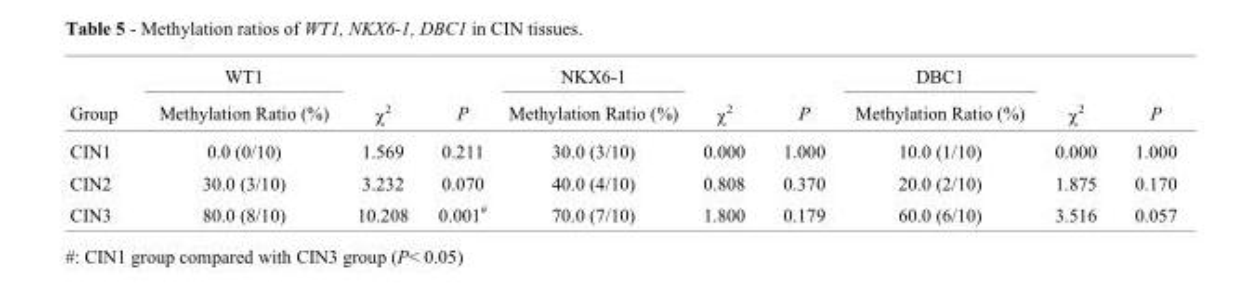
<table><thead><tr><td rowspan="2">Group</td><td rowspan="2">WT1 Methylation Ratio (%)</td><td rowspan="2">χ<sup>2</sup></td><td rowspan="2">P</td><td rowspan="2">NKX6-1 Methylation Ratio (%)</td><td rowspan="2">χ<sup>2</sup></td><td rowspan="2">P</td><td rowspan="2">DBC1 Methylation Ratio (%)</td><td rowspan="2">χ<sup>2</sup></td><td rowspan="2">P</td></tr><tr></tr></thead><tbody><tr><td>CIN1</td><td>0.0 (0/10)</td><td>1.569</td><td>0.211</td><td>30.0 (3/10)</td><td>0.000</td><td>1.000</td><td>10.0 (1/10)</td><td>0.000</td><td>1.000</td></tr><tr><td>CIN2</td><td>30.0 (3/10)</td><td>3.232</td><td>0.070</td><td>40.0 (4/10)</td><td>0.808</td><td>0.370</td><td>20.0 (2/10)</td><td>1.875</td><td>0.170</td></tr><tr><td>CIN3</td><td>80.0 (8/10)</td><td>10.208</td><td>0.001<sup>#</sup></td><td>70.0 (7/10)</td><td>1.800</td><td>0.179</td><td>60.0 (6/10)</td><td>3.516</td><td>0.057</td></tr></tbody></table>